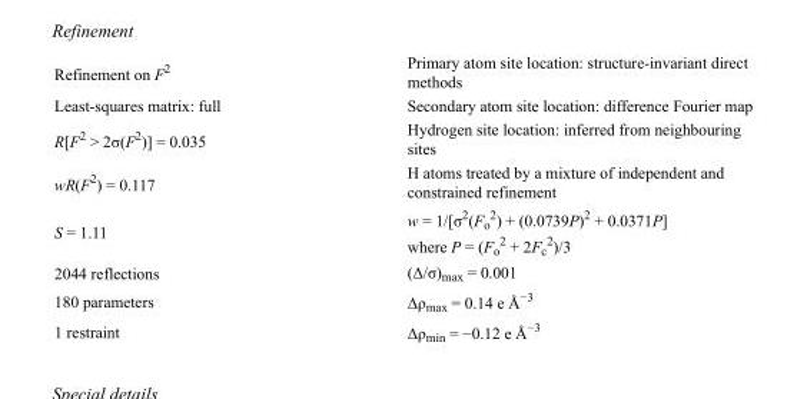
<table><tbody><tr><td>Refinement on F<sup>2</sup></td><td>Primary atom site location: structure-invariant direct methods</td></tr><tr><td>Least-squares matrix: full</td><td>Secondary atom site location: difference Fourier map</td></tr><tr><td>R[F<sup>2</sup> &gt; 2σ(F<sup>2</sup>)] = 0.035</td><td>Hydrogen site location: inferred from neighbouring sites</td></tr><tr><td>wR(F<sup>2</sup>) = 0.117</td><td>H atoms treated by a mixture of independent and constrained refinement</td></tr><tr><td>S = 1.11</td><td>w = 1/[σ<sup>2</sup>(F<sub>o</sub> <sup>2</sup>) + (0.0739P)<sup>2</sup> + 0.0371P] where P = (F<sub>o</sub> <sup>2</sup> + 2F<sub>c</sub> <sup>2</sup>)/3</td></tr><tr><td>2044 reflections</td><td>(Δ/σ)<sub>max</sub> = 0.001</td></tr><tr><td>180 parameters</td><td>Δρ<sub>max</sub> = 0.14 e Å<sup>−3</sup></td></tr><tr><td>1 restraint</td><td>Δρ<sub>min</sub> = −0.12 e Å<sup>−3</sup></td></tr></tbody></table>